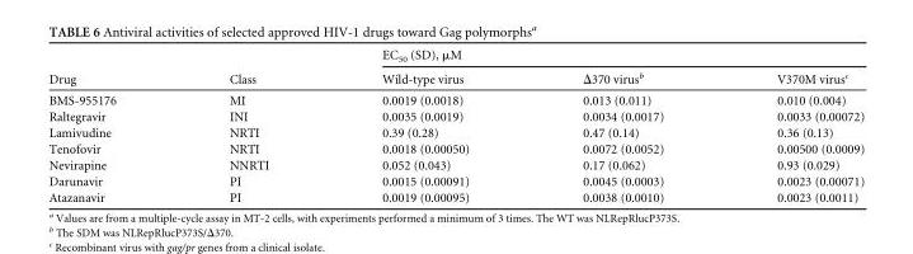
<table><thead><tr><td rowspan="2">Drug</td><td rowspan="2">Class</td><td colspan="3">EC<sub>50</sub> (SD), μM</td></tr><tr><td>Wild-type virus</td><td>Δ370 virus<sup>b</sup></td><td>V370M virus<sup>c</sup></td></tr></thead><tbody><tr><td>BMS-955176</td><td>MI</td><td>0.0019 (0.0018)</td><td>0.013 (0.011)</td><td>0.010 (0.004)</td></tr><tr><td>Raltegravir</td><td>INI</td><td>0.0035 (0.0019)</td><td>0.0034 (0.0017)</td><td>0.0033 (0.00072)</td></tr><tr><td>Lamivudine</td><td>NRTI</td><td>0.39 (0.28)</td><td>0.47 (0.14)</td><td>0.36 (0.13)</td></tr><tr><td>Tenofovir</td><td>NRTI</td><td>0.0018 (0.00050)</td><td>0.0072 (0.0052)</td><td>0.00500 (0.0009)</td></tr><tr><td>Nevirapine</td><td>NNRTI</td><td>0.052 (0.043)</td><td>0.17 (0.062)</td><td>0.93 (0.029)</td></tr><tr><td>Darunavir</td><td>PI</td><td>0.0015 (0.00091)</td><td>0.0045 (0.0003)</td><td>0.0023 (0.00071)</td></tr><tr><td>Atazanavir</td><td>PI</td><td>0.0019 (0.00095)</td><td>0.0038 (0.0010)</td><td>0.0023 (0.0011)</td></tr></tbody></table>